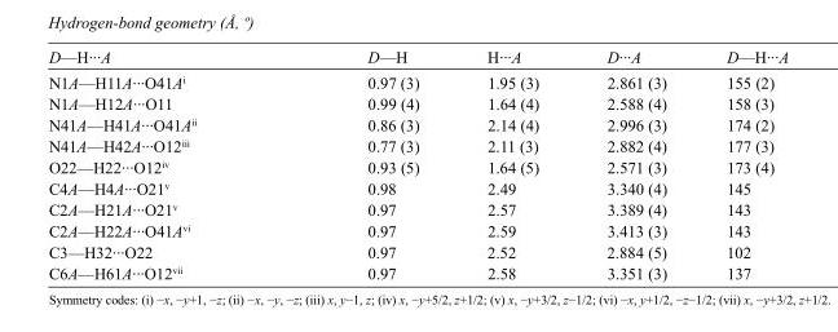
<table><tbody><tr><td>D—H···A</td><td>D—H</td><td>H···A</td><td>D···A</td><td>D—H···A</td></tr><tr><td>N1A—H11A···O41A<sup>i</sup></td><td>0.97 (3)</td><td>1.95 (3)</td><td>2.861 (3)</td><td>155 (2)</td></tr><tr><td>N1A—H12A···O11</td><td>0.99 (4)</td><td>1.64 (4)</td><td>2.588 (4)</td><td>158 (3)</td></tr><tr><td>N41A—H41A···O41A<sup>ii</sup></td><td>0.86 (3)</td><td>2.14 (4)</td><td>2.996 (3)</td><td>174 (2)</td></tr><tr><td>N41A—H42A···O12<sup>iii</sup></td><td>0.77 (3)</td><td>2.11 (3)</td><td>2.882 (4)</td><td>177 (3)</td></tr><tr><td>O22—H22···O12<sup>iv</sup></td><td>0.93 (5)</td><td>1.64 (5)</td><td>2.571 (3)</td><td>173 (4)</td></tr><tr><td>C4A—H4A···O21<sup>v</sup></td><td>0.98</td><td>2.49</td><td>3.340 (4)</td><td>145</td></tr><tr><td>C2A—H21A···O21<sup>v</sup></td><td>0.97</td><td>2.57</td><td>3.389 (4)</td><td>143</td></tr><tr><td>C2A—H22A···O41A<sup>vi</sup></td><td>0.97</td><td>2.59</td><td>3.413 (3)</td><td>143</td></tr><tr><td>C3—H32···O22</td><td>0.97</td><td>2.52</td><td>2.884 (5)</td><td>102</td></tr><tr><td>C6A—H61A···O12<sup>vii</sup></td><td>0.97</td><td>2.58</td><td>3.351 (3)</td><td>137</td></tr></tbody></table>